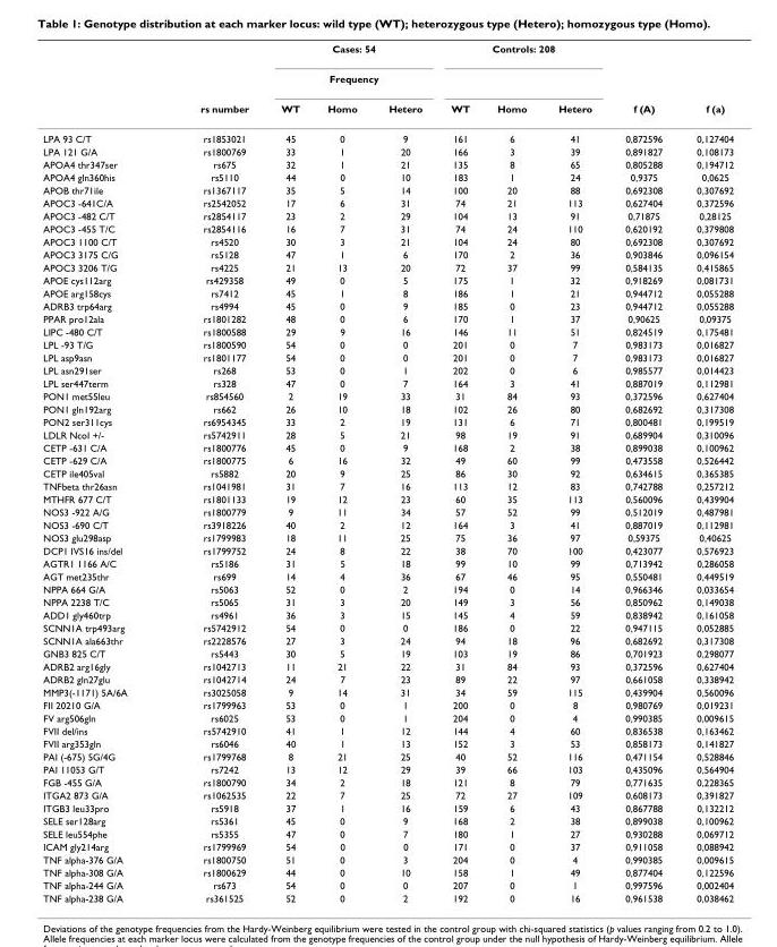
<table><thead><tr><td rowspan="3"></td><td rowspan="3">rs number</td><td rowspan="2" colspan="3">Cases: 54 Frequency</td><td colspan="3">Controls: 208</td><td rowspan="3">f (A)</td><td rowspan="3">f (a)</td></tr><tr><td rowspan="2">WT</td><td rowspan="2">Homo</td><td rowspan="2">Hetero</td></tr><tr><td>WT</td><td>Homo</td><td>Hetero</td></tr></thead><tbody><tr><td>LPA 93 C/T</td><td>rs1853021</td><td>45</td><td>0</td><td>9</td><td>161</td><td>6</td><td>41</td><td>0,872596</td><td>0,127404</td></tr><tr><td>LPA 121 G/A</td><td>rs1800769</td><td>33</td><td>1</td><td>20</td><td>166</td><td>3</td><td>39</td><td>0,891827</td><td>0,108173</td></tr><tr><td>APOA4 thr347ser</td><td>rs675</td><td>32</td><td>1</td><td>21</td><td>135</td><td>8</td><td>65</td><td>0,805288</td><td>0,194712</td></tr><tr><td>APOA4 gln360his</td><td>rs5110</td><td>44</td><td>0</td><td>10</td><td>183</td><td>1</td><td>24</td><td>0,9375</td><td>0,0625</td></tr><tr><td>APOB thr71ile</td><td>rs1367117</td><td>35</td><td>5</td><td>14</td><td>100</td><td>20</td><td>88</td><td>0,692308</td><td>0,307692</td></tr><tr><td>APOC3 -641C/A</td><td>rs2542052</td><td>17</td><td>6</td><td>31</td><td>74</td><td>21</td><td>113</td><td>0,627404</td><td>0,372596</td></tr><tr><td>APOC3 -482 C/T</td><td>rs2854117</td><td>23</td><td>2</td><td>29</td><td>104</td><td>13</td><td>91</td><td>0,71875</td><td>0,28125</td></tr><tr><td>APOC3 -455 T/C</td><td>rs2854116</td><td>16</td><td>7</td><td>31</td><td>74</td><td>24</td><td>110</td><td>0,620192</td><td>0,379808</td></tr><tr><td>APOC3 1100 C/T</td><td>rs4520</td><td>30</td><td>3</td><td>21</td><td>104</td><td>24</td><td>80</td><td>0,692308</td><td>0,307692</td></tr><tr><td>APOC3 3175 C/G</td><td>rs5128</td><td>47</td><td>1</td><td>6</td><td>170</td><td>2</td><td>36</td><td>0,903846</td><td>0,096154</td></tr><tr><td>APOC3 3206 T/G</td><td>rs4225</td><td>21</td><td>13</td><td>20</td><td>72</td><td>37</td><td>99</td><td>0,584135</td><td>0,415865</td></tr><tr><td>APOE cys112arg</td><td>rs429358</td><td>49</td><td>0</td><td>5</td><td>175</td><td>1</td><td>32</td><td>0,918269</td><td>0,081731</td></tr><tr><td>APOE arg158cys</td><td>rs7412</td><td>45</td><td>1</td><td>8</td><td>186</td><td>1</td><td>21</td><td>0,944712</td><td>0,055288</td></tr><tr><td>ADRB3 trp64arg</td><td>rs4994</td><td>45</td><td>0</td><td>9</td><td>185</td><td>0</td><td>23</td><td>0,944712</td><td>0,055288</td></tr><tr><td>PPAR pro12ala</td><td>rs1801282</td><td>48</td><td>0</td><td>6</td><td>170</td><td>1</td><td>37</td><td>0,90625</td><td>0,09375</td></tr><tr><td>LIPC -480 C/T</td><td>rs1800588</td><td>29</td><td>9</td><td>16</td><td>146</td><td>11</td><td>51</td><td>0,824519</td><td>0,175481</td></tr><tr><td>LPL -93 T/G</td><td>rs1800590</td><td>54</td><td>0</td><td>0</td><td>201</td><td>0</td><td>7</td><td>0,983173</td><td>0,016827</td></tr><tr><td>LPL asp9asn</td><td>rs1801177</td><td>54</td><td>0</td><td>0</td><td>201</td><td>0</td><td>7</td><td>0,983173</td><td>0,016827</td></tr><tr><td>LPL asn291ser</td><td>rs268</td><td>53</td><td>0</td><td>1</td><td>202</td><td>0</td><td>6</td><td>0,985577</td><td>0,014423</td></tr><tr><td>LPL ser447term</td><td>rs328</td><td>47</td><td>0</td><td>7</td><td>164</td><td>3</td><td>41</td><td>0,887019</td><td>0,112981</td></tr><tr><td>PON1 met55leu</td><td>rs854560</td><td>2</td><td>19</td><td>33</td><td>31</td><td>84</td><td>93</td><td>0,372596</td><td>0,627404</td></tr><tr><td>PON1 gln192arg</td><td>rs662</td><td>26</td><td>10</td><td>18</td><td>102</td><td>26</td><td>80</td><td>0,682692</td><td>0,317308</td></tr><tr><td>PON2 ser311cys</td><td>rs6954345</td><td>33</td><td>2</td><td>19</td><td>131</td><td>6</td><td>71</td><td>0,800481</td><td>0,199519</td></tr><tr><td>LDLR NcoI +/-</td><td>rs5742911</td><td>28</td><td>5</td><td>21</td><td>98</td><td>19</td><td>91</td><td>0,689904</td><td>0,310096</td></tr><tr><td>CETP -631 C/A</td><td>rs1800776</td><td>45</td><td>0</td><td>9</td><td>168</td><td>2</td><td>38</td><td>0,899038</td><td>0,100962</td></tr><tr><td>CETP -629 C/A</td><td>rs1800775</td><td>6</td><td>16</td><td>32</td><td>49</td><td>60</td><td>99</td><td>0,473558</td><td>0,526442</td></tr><tr><td>CETP ile405val</td><td>rs5882</td><td>20</td><td>9</td><td>25</td><td>86</td><td>30</td><td>92</td><td>0,634615</td><td>0,365385</td></tr><tr><td>TNFbeta thr26asn</td><td>rs1041981</td><td>31</td><td>7</td><td>16</td><td>113</td><td>12</td><td>83</td><td>0,742788</td><td>0,257212</td></tr><tr><td>MTHFR 677 C/T</td><td>rs1801133</td><td>19</td><td>12</td><td>23</td><td>60</td><td>35</td><td>113</td><td>0,560096</td><td>0,439904</td></tr><tr><td>NOS3 -922 A/G</td><td>rs1800779</td><td>9</td><td>11</td><td>34</td><td>57</td><td>52</td><td>99</td><td>0,512019</td><td>0,487981</td></tr><tr><td>NOS3 -690 C/T</td><td>rs3918226</td><td>40</td><td>2</td><td>12</td><td>164</td><td>3</td><td>41</td><td>0,887019</td><td>0,112981</td></tr><tr><td>NOS3 glu298asp</td><td>rs1799983</td><td>18</td><td>11</td><td>25</td><td>75</td><td>36</td><td>97</td><td>0,59375</td><td>0,40625</td></tr><tr><td>DCP1 IVS16 ins/del</td><td>rs1799752</td><td>24</td><td>8</td><td>22</td><td>38</td><td>70</td><td>100</td><td>0,423077</td><td>0,576923</td></tr><tr><td>AGTR1 1166 A/C</td><td>rs5186</td><td>31</td><td>5</td><td>18</td><td>99</td><td>10</td><td>99</td><td>0,713942</td><td>0,286058</td></tr><tr><td>AGT met235thr</td><td>rs699</td><td>14</td><td>4</td><td>36</td><td>67</td><td>46</td><td>95</td><td>0,550481</td><td>0,449519</td></tr><tr><td>NPPA 664 G/A</td><td>rs5063</td><td>52</td><td>0</td><td>2</td><td>194</td><td>0</td><td>14</td><td>0,966346</td><td>0,033654</td></tr><tr><td>NPPA 2238 T/C</td><td>rs5065</td><td>31</td><td>3</td><td>20</td><td>149</td><td>3</td><td>56</td><td>0,850962</td><td>0,149038</td></tr><tr><td>ADD1 gly460trp</td><td>rs4961</td><td>36</td><td>3</td><td>15</td><td>145</td><td>4</td><td>59</td><td>0,838942</td><td>0,161058</td></tr><tr><td>SCNN1A trp493arg</td><td>rs5742912</td><td>54</td><td>0</td><td>0</td><td>186</td><td>0</td><td>22</td><td>0,947115</td><td>0,052885</td></tr><tr><td>SCNN1A ala663thr</td><td>rs2228576</td><td>27</td><td>3</td><td>24</td><td>94</td><td>18</td><td>96</td><td>0,682692</td><td>0,317308</td></tr><tr><td>GNB3 825 C/T</td><td>rs5443</td><td>30</td><td>5</td><td>19</td><td>103</td><td>19</td><td>86</td><td>0,701923</td><td>0,298077</td></tr><tr><td>ADRB2 arg16gly</td><td>rs1042713</td><td>11</td><td>21</td><td>22</td><td>31</td><td>84</td><td>93</td><td>0,372596</td><td>0,627404</td></tr><tr><td>ADRB2 gln27glu</td><td>rs1042714</td><td>24</td><td>7</td><td>23</td><td>89</td><td>22</td><td>97</td><td>0,661058</td><td>0,338942</td></tr><tr><td>MMP3(-1171) 5A/6A</td><td>rs3025058</td><td>9</td><td>14</td><td>31</td><td>34</td><td>59</td><td>115</td><td>0,439904</td><td>0,560096</td></tr><tr><td>FII 20210 G/A</td><td>rs1799963</td><td>53</td><td>0</td><td>1</td><td>200</td><td>0</td><td>8</td><td>0,980769</td><td>0,019231</td></tr><tr><td>FV arg506gln</td><td>rs6025</td><td>53</td><td>0</td><td>1</td><td>204</td><td>0</td><td>4</td><td>0,990385</td><td>0,009615</td></tr><tr><td>FVII del/ins</td><td>rs5742910</td><td>41</td><td>1</td><td>12</td><td>144</td><td>4</td><td>60</td><td>0,836538</td><td>0,163462</td></tr><tr><td>FVII arg353gln</td><td>rs6046</td><td>40</td><td>1</td><td>13</td><td>152</td><td>3</td><td>53</td><td>0,858173</td><td>0,141827</td></tr><tr><td>PAI (-675) 5G/4G</td><td>rs1799768</td><td>8</td><td>21</td><td>25</td><td>40</td><td>52</td><td>116</td><td>0,471154</td><td>0,528846</td></tr><tr><td>PAI 11053 G/T</td><td>rs7242</td><td>13</td><td>12</td><td>29</td><td>39</td><td>66</td><td>103</td><td>0,435096</td><td>0,564904</td></tr><tr><td>FGB -455 G/A</td><td>rs1800790</td><td>34</td><td>2</td><td>18</td><td>121</td><td>8</td><td>79</td><td>0,771635</td><td>0,228365</td></tr><tr><td>ITGA2 873 G/A</td><td>rs1062535</td><td>22</td><td>7</td><td>25</td><td>72</td><td>27</td><td>109</td><td>0,608173</td><td>0,391827</td></tr><tr><td>ITGB3 leu33pro</td><td>rs5918</td><td>37</td><td>1</td><td>16</td><td>159</td><td>6</td><td>43</td><td>0,867788</td><td>0,132212</td></tr><tr><td>SELE ser128arg</td><td>rs5361</td><td>45</td><td>0</td><td>9</td><td>168</td><td>2</td><td>38</td><td>0,899038</td><td>0,100962</td></tr><tr><td>SELE leu554phe</td><td>rs5355</td><td>47</td><td>0</td><td>7</td><td>180</td><td>1</td><td>27</td><td>0,930288</td><td>0,069712</td></tr><tr><td>ICAM gly214arg</td><td>rs1799969</td><td>54</td><td>0</td><td>0</td><td>171</td><td>0</td><td>37</td><td>0,911058</td><td>0,088942</td></tr><tr><td>TNF alpha-376 G/A</td><td>rs1800750</td><td>51</td><td>0</td><td>3</td><td>204</td><td>0</td><td>4</td><td>0,990385</td><td>0,009615</td></tr><tr><td>TNF alpha-308 G/A</td><td>rs1800629</td><td>44</td><td>0</td><td>10</td><td>158</td><td>1</td><td>49</td><td>0,877404</td><td>0,122596</td></tr><tr><td>TNF alpha-244 G/A</td><td>rs673</td><td>54</td><td>0</td><td>0</td><td>207</td><td>0</td><td>1</td><td>0,997596</td><td>0,002404</td></tr><tr><td>TNF alpha-238 G/A</td><td>rs361525</td><td>52</td><td>0</td><td>2</td><td>192</td><td>0</td><td>16</td><td>0,961538</td><td>0,038462</td></tr></tbody></table>